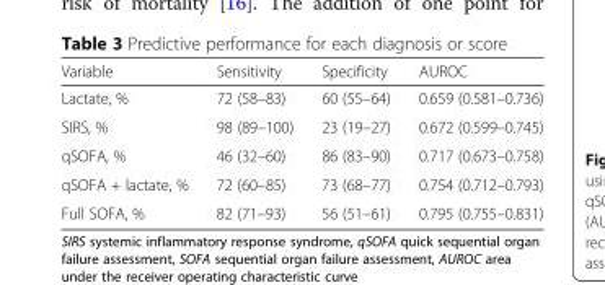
<table><thead><tr><td>Variable</td><td>Sensitivity</td><td>Specificity</td><td>AUROC</td></tr></thead><tbody><tr><td>Lactate, %</td><td>72 (58–83)</td><td>60 (55–64)</td><td>0.659 (0.581–0.736)</td></tr><tr><td>SIRS, %</td><td>98 (89–100)</td><td>23 (19–27)</td><td>0.672 (0.599–0.745)</td></tr><tr><td>qSOFA, %</td><td>46 (32–60)</td><td>86 (83–90)</td><td>0.717 (0.673–0.758)</td></tr><tr><td>qSOFA + lactate, %</td><td>72 (60–85)</td><td>73 (68–77)</td><td>0.754 (0.712–0.793)</td></tr><tr><td>Full SOFA, %</td><td>82 (71–93)</td><td>56 (51–61)</td><td>0.795 (0.755–0.831)</td></tr></tbody></table>